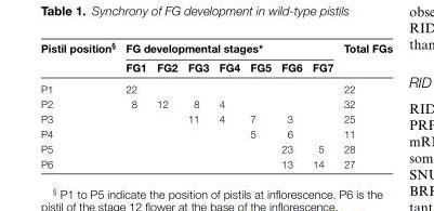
<table><thead><tr><td rowspan="2">Pistil position<sup>§</sup></td><td colspan="7">FG developmental stages*</td><td rowspan="2">Total FGs</td></tr><tr><td>FG1</td><td>FG2</td><td>FG3</td><td>FG4</td><td>FG5</td><td>FG6</td><td>FG7</td></tr></thead><tbody><tr><td>P1</td><td>22</td><td></td><td></td><td></td><td></td><td></td><td></td><td>22</td></tr><tr><td>P2</td><td>8</td><td>12</td><td>8</td><td>4</td><td></td><td></td><td></td><td>32</td></tr><tr><td>P3</td><td></td><td></td><td>11</td><td>4</td><td>7</td><td>3</td><td></td><td>25</td></tr><tr><td>P4</td><td></td><td></td><td></td><td></td><td>5</td><td>6</td><td></td><td>11</td></tr><tr><td>P5</td><td></td><td></td><td></td><td></td><td></td><td>23</td><td>5</td><td>28</td></tr><tr><td>P6</td><td></td><td></td><td></td><td></td><td></td><td>13</td><td>14</td><td>27</td></tr></tbody></table>